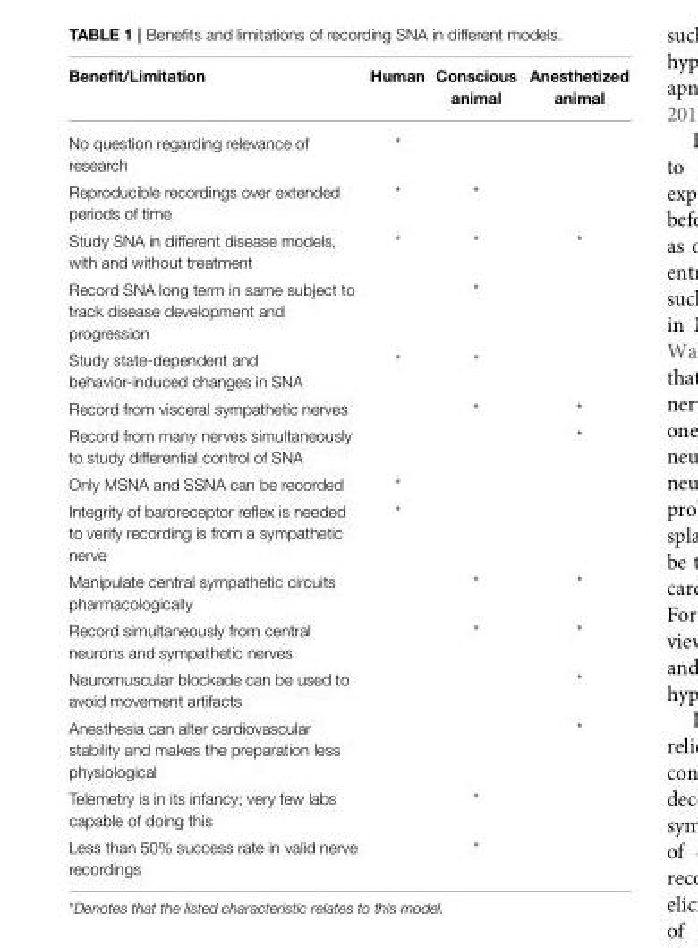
<table><thead><tr><td>Benefit/Limitation</td><td>Human</td><td>Conscious animal</td><td>Anesthetized animal</td></tr></thead><tbody><tr><td>No question regarding relevance of research</td><td>*</td><td></td><td></td></tr><tr><td>Reproducible recordings over extended periods of time</td><td>*</td><td>*</td><td></td></tr><tr><td>Study SNA in different disease models, with and without treatment</td><td>*</td><td>*</td><td>*</td></tr><tr><td>Record SNA long term in same subject to track disease development and progression</td><td></td><td>*</td><td></td></tr><tr><td>Study state-dependent and behavior-induced changes in SNA</td><td>*</td><td>*</td><td></td></tr><tr><td>Record from visceral sympathetic nerves</td><td></td><td>*</td><td>*</td></tr><tr><td>Record from many nerves simultaneously to study differential control of SNA</td><td></td><td></td><td>*</td></tr><tr><td>Only MSNA and SSNA can be recorded</td><td>*</td><td></td><td></td></tr><tr><td>Integrity of baroreceptor reflex is needed to verify recording is from a sympathetic nerve</td><td>*</td><td></td><td></td></tr><tr><td>Manipulate central sympathetic circuits pharmacologically</td><td></td><td>*</td><td>*</td></tr><tr><td>Record simultaneously from central neurons and sympathetic nerves</td><td></td><td>*</td><td>*</td></tr><tr><td>Neuromuscular blockade can be used to avoid movement artifacts</td><td></td><td></td><td>*</td></tr><tr><td>Anesthesia can alter cardiovascular stability and makes the preparation less physiological</td><td></td><td></td><td>*</td></tr><tr><td>Telemetry is in its infancy; very few labs capable of doing this</td><td></td><td>*</td><td></td></tr><tr><td>Less than 50% success rate in valid nerve recordings</td><td></td><td>*</td><td></td></tr></tbody></table>